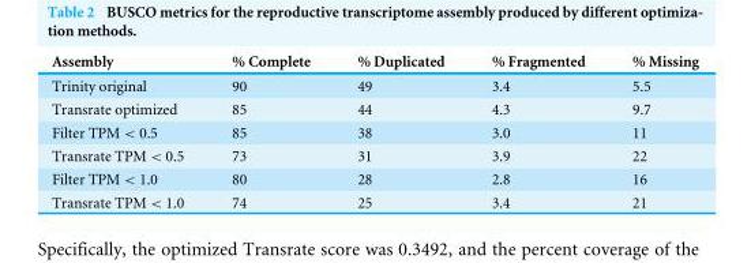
<table><thead><tr><td>Assembly</td><td>% Complete</td><td>% Duplicated</td><td>% Fragmented</td><td>% Missing</td></tr></thead><tbody><tr><td>Trinity original</td><td>90</td><td>49</td><td>3.4</td><td>5.5</td></tr><tr><td>Transrate optimized</td><td>85</td><td>44</td><td>4.3</td><td>9.7</td></tr><tr><td>Filter TPM &lt; 0.5</td><td>85</td><td>38</td><td>3.0</td><td>11</td></tr><tr><td>Transrate TPM &lt; 0.5</td><td>73</td><td>31</td><td>3.9</td><td>22</td></tr><tr><td>Filter TPM &lt; 1.0</td><td>80</td><td>28</td><td>2.8</td><td>16</td></tr><tr><td>Transrate TPM &lt; 1.0</td><td>74</td><td>25</td><td>3.4</td><td>21</td></tr></tbody></table>